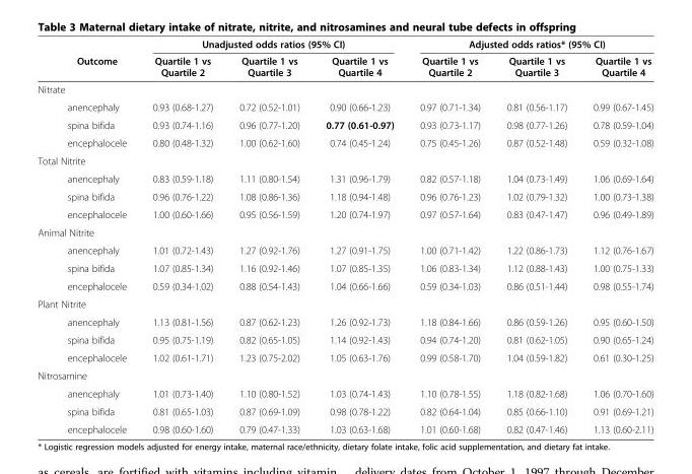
<table><thead><tr><td rowspan="2"></td><td rowspan="2">Outcome</td><td colspan="3">Unadjusted odds ratios (95% CI)</td><td colspan="3">Adjusted odds ratios* (95% CI)</td></tr><tr><td>Quartile 1 vs Quartile 2</td><td>Quartile 1 vs Quartile 3</td><td>Quartile 1 vs Quartile 4</td><td>Quartile 1 vs Quartile 2</td><td>Quartile 1 vs Quartile 3</td><td>Quartile 1 vs Quartile 4</td></tr></thead><tbody><tr><td colspan="8">Nitrate</td></tr><tr><td></td><td>anencephaly</td><td>0.93 (0.68-1.27)</td><td>0.72 (0.52-1.01)</td><td>0.90 (0.66-1.23)</td><td>0.97 (0.71-1.34)</td><td>0.81 (0.56-1.17)</td><td>0.99 (0.67-1.45)</td></tr><tr><td></td><td>spina bifida</td><td>0.93 (0.74-1.16)</td><td>0.96 (0.77-1.20)</td><td>0.77 (0.61-0.97)</td><td>0.93 (0.73-1.17)</td><td>0.98 (0.77-1.26)</td><td>0.78 (0.59-1.04)</td></tr><tr><td></td><td>encephalocele</td><td>0.80 (0.48-1.32)</td><td>1.00 (0.62-1.60)</td><td>0.74 (0.45-1.24)</td><td>0.75 (0.45-1.26)</td><td>0.87 (0.52-1.48)</td><td>0.59 (0.32-1.08)</td></tr><tr><td colspan="8">Total Nitrite</td></tr><tr><td></td><td>anencephaly</td><td>0.83 (0.59-1.18)</td><td>1.11 (0.80-1.54)</td><td>1.31 (0.96-1.79)</td><td>0.82 (0.57-1.18)</td><td>1.04 (0.73-1.49)</td><td>1.06 (0.69-1.64)</td></tr><tr><td></td><td>spina bifida</td><td>0.96 (0.76-1.22)</td><td>1.08 (0.86-1.36)</td><td>1.18 (0.94-1.48)</td><td>0.96 (0.76-1.23)</td><td>1.02 (0.79-1.32)</td><td>1.00 (0.73-1.38)</td></tr><tr><td></td><td>encephalocele</td><td>1.00 (0.60-1.66)</td><td>0.95 (0.56-1.59)</td><td>1.20 (0.74-1.97)</td><td>0.97 (0.57-1.64)</td><td>0.83 (0.47-1.47)</td><td>0.96 (0.49-1.89)</td></tr><tr><td colspan="8">Animal Nitrite</td></tr><tr><td></td><td>anencephaly</td><td>1.01 (0.72-1.43)</td><td>1.27 (0.92-1.76)</td><td>1.27 (0.91-1.75)</td><td>1.00 (0.71-1.42)</td><td>1.22 (0.86-1.73)</td><td>1.12 (0.76-1.67)</td></tr><tr><td></td><td>spina bifida</td><td>1.07 (0.85-1.34)</td><td>1.16 (0.92-1.46)</td><td>1.07 (0.85-1.35)</td><td>1.06 (0.83-1.34)</td><td>1.12 (0.88-1.43)</td><td>1.00 (0.75-1.33)</td></tr><tr><td></td><td>encephalocele</td><td>0.59 (0.34-1.02)</td><td>0.88 (0.54-1.43)</td><td>1.04 (0.66-1.66)</td><td>0.59 (0.34-1.03)</td><td>0.86 (0.51-1.44)</td><td>0.98 (0.55-1.74)</td></tr><tr><td colspan="8">Plant Nitrite</td></tr><tr><td></td><td>anencephaly</td><td>1.13 (0.81-1.56)</td><td>0.87 (0.62-1.23)</td><td>1.26 (0.92-1.73)</td><td>1.18 (0.84-1.66)</td><td>0.86 (0.59-1.26)</td><td>0.95 (0.60-1.50)</td></tr><tr><td></td><td>spina bifida</td><td>0.95 (0.75-1.19)</td><td>0.82 (0.65-1.05)</td><td>1.14 (0.92-1.43)</td><td>0.94 (0.74-1.20)</td><td>0.81 (0.62-1.05)</td><td>0.90 (0.65-1.24)</td></tr><tr><td></td><td>encephalocele</td><td>1.02 (0.61-1.71)</td><td>1.23 (0.75-2.02)</td><td>1.05 (0.63-1.76)</td><td>0.99 (0.58-1.70)</td><td>1.04 (0.59-1.82)</td><td>0.61 (0.30-1.25)</td></tr><tr><td colspan="8">Nitrosamine</td></tr><tr><td></td><td>anencephaly</td><td>1.01 (0.73-1.40)</td><td>1.10 (0.80-1.52)</td><td>1.03 (0.74-1.43)</td><td>1.10 (0.78-1.55)</td><td>1.18 (0.82-1.68)</td><td>1.06 (0.70-1.60)</td></tr><tr><td></td><td>spina bifida</td><td>0.81 (0.65-1.03)</td><td>0.87 (0.69-1.09)</td><td>0.98 (0.78-1.22)</td><td>0.82 (0.64-1.04)</td><td>0.85 (0.66-1.10)</td><td>0.91 (0.69-1.21)</td></tr><tr><td></td><td>encephalocele</td><td>0.98 (0.60-1.60)</td><td>0.79 (0.47-1.33)</td><td>1.03 (0.63-1.68)</td><td>1.01 (0.60-1.68)</td><td>0.82 (0.47-1.46)</td><td>1.13 (0.60-2.11)</td></tr></tbody></table>